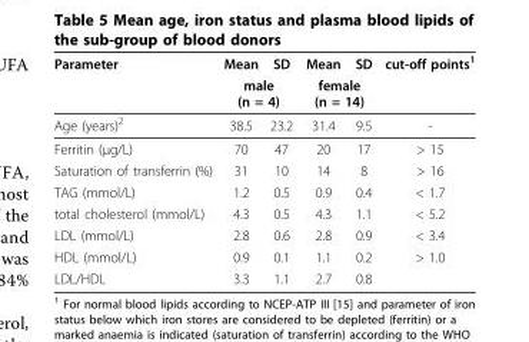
<table><thead><tr><td rowspan="2">Parameter</td><td>Mean</td><td>SD</td><td>Mean</td><td>SD</td><td rowspan="2">cut-off points<sup>1</sup></td></tr><tr><td colspan="2">male (n = 4)</td><td colspan="2">female (n = 14)</td></tr></thead><tbody><tr><td>Age (years)<sup>2</sup></td><td>38.5</td><td>23.2</td><td>31.4</td><td>9.5</td><td>-</td></tr><tr><td>Ferritin (μg/L)</td><td>70</td><td>47</td><td>20</td><td>17</td><td>&gt; 15</td></tr><tr><td>Saturation of transferrin (%)</td><td>31</td><td>10</td><td>14</td><td>8</td><td>&gt; 16</td></tr><tr><td>TAG (mmol/L)</td><td>1.2</td><td>0.5</td><td>0.9</td><td>0.4</td><td>&lt; 1.7</td></tr><tr><td>total cholesterol (mmol/L)</td><td>4.3</td><td>0.5</td><td>4.3</td><td>1.1</td><td>&lt; 5.2</td></tr><tr><td>LDL (mmol/L)</td><td>2.8</td><td>0.6</td><td>2.8</td><td>0.9</td><td>&lt; 3.4</td></tr><tr><td>HDL (mmol/L)</td><td>0.9</td><td>0.1</td><td>1.1</td><td>0.2</td><td>&gt; 1.0</td></tr><tr><td>LDL/HDL</td><td>3.3</td><td>1.1</td><td>2.7</td><td>0.8</td><td></td></tr></tbody></table>